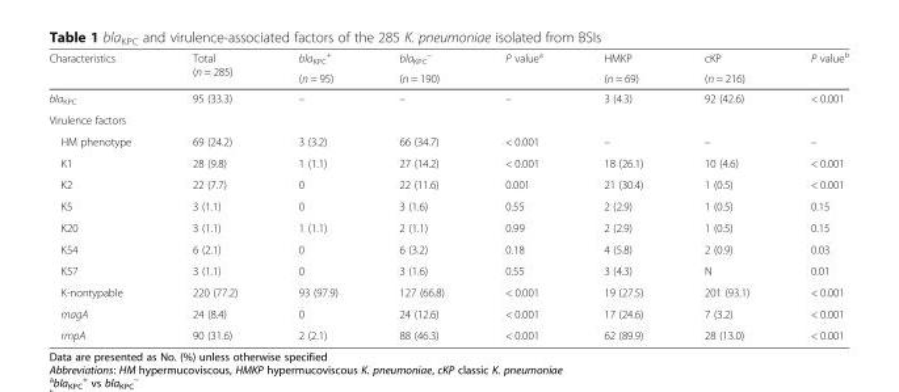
<table><thead><tr><td rowspan="2">Characteristics</td><td rowspan="2">Total (n = 285)</td><td rowspan="2">bla<sub>KPC</sub> <sup>+</sup> (n = 95)</td><td rowspan="2">bla<sub>KPC</sub> <sup>−</sup> (n = 190)</td><td rowspan="2">P value<sup>a</sup></td><td rowspan="2">HMKP (n = 69)</td><td rowspan="2">cKP (n = 216)</td><td rowspan="2">P value<sup>b</sup></td></tr><tr></tr></thead><tbody><tr><td>bla<sub>KPC</sub></td><td>95 (33.3)</td><td>–</td><td>–</td><td>–</td><td>3 (4.3)</td><td>92 (42.6)</td><td>&lt; 0.001</td></tr><tr><td colspan="8">Virulence factors</td></tr><tr><td>HM phenotype</td><td>69 (24.2)</td><td>3 (3.2)</td><td>66 (34.7)</td><td>&lt; 0.001</td><td>–</td><td>–</td><td>–</td></tr><tr><td>K1</td><td>28 (9.8)</td><td>1 (1.1)</td><td>27 (14.2)</td><td>&lt; 0.001</td><td>18 (26.1)</td><td>10 (4.6)</td><td>&lt; 0.001</td></tr><tr><td>K2</td><td>22 (7.7)</td><td>0</td><td>22 (11.6)</td><td>0.001</td><td>21 (30.4)</td><td>1 (0.5)</td><td>&lt; 0.001</td></tr><tr><td>K5</td><td>3 (1.1)</td><td>0</td><td>3 (1.6)</td><td>0.55</td><td>2 (2.9)</td><td>1 (0.5)</td><td>0.15</td></tr><tr><td>K20</td><td>3 (1.1)</td><td>1 (1.1)</td><td>2 (1.1)</td><td>0.99</td><td>2 (2.9)</td><td>1 (0.5)</td><td>0.15</td></tr><tr><td>K54</td><td>6 (2.1)</td><td>0</td><td>6 (3.2)</td><td>0.18</td><td>4 (5.8)</td><td>2 (0.9)</td><td>0.03</td></tr><tr><td>K57</td><td>3 (1.1)</td><td>0</td><td>3 (1.6)</td><td>0.55</td><td>3 (4.3)</td><td>N</td><td>0.01</td></tr><tr><td>K-nontypable</td><td>220 (77.2)</td><td>93 (97.9)</td><td>127 (66.8)</td><td>&lt; 0.001</td><td>19 (27.5)</td><td>201 (93.1)</td><td>&lt; 0.001</td></tr><tr><td>magA</td><td>24 (8.4)</td><td>0</td><td>24 (12.6)</td><td>&lt; 0.001</td><td>17 (24.6)</td><td>7 (3.2)</td><td>&lt; 0.001</td></tr><tr><td>rmpA</td><td>90 (31.6)</td><td>2 (2.1)</td><td>88 (46.3)</td><td>&lt; 0.001</td><td>62 (89.9)</td><td>28 (13.0)</td><td>&lt; 0.001</td></tr></tbody></table>